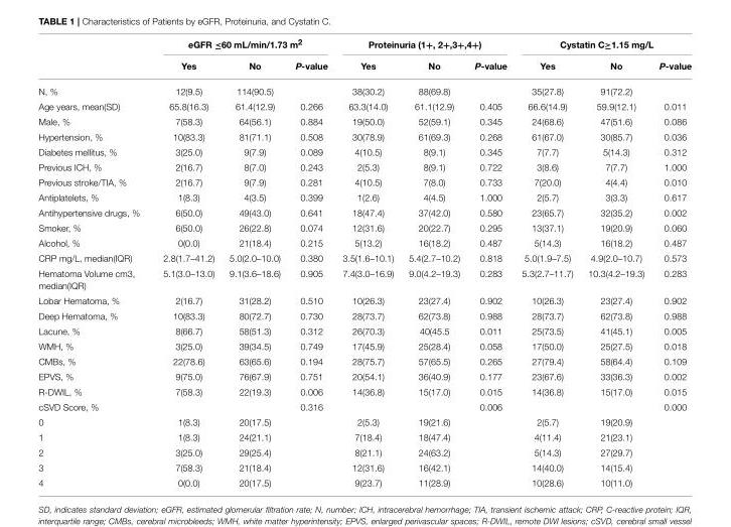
<table><thead><tr><td rowspan="2"></td><td colspan="3">eGFR ≤60 mL/min/1.73 m<sup>2</sup></td><td colspan="3">Proteinuria (1+, 2+,3+,4+)</td><td colspan="3">Cystatin C≥1.15 mg/L</td></tr><tr><td>Yes</td><td>No</td><td>P-value</td><td>Yes</td><td>No</td><td>P-value</td><td>Yes</td><td>No</td><td>P-value</td></tr></thead><tbody><tr><td>N, %</td><td>12(9.5)</td><td>114(90.5)</td><td></td><td>38(30.2)</td><td>88(69.8)</td><td></td><td>35(27.8)</td><td>91(72.2)</td><td></td></tr><tr><td>Age years, mean(SD)</td><td>65.8(16.3)</td><td>61.4(12.9)</td><td>0.266</td><td>63.3(14.0)</td><td>61.1(12.9)</td><td>0.405</td><td>66.6(14.9)</td><td>59.9(12.1)</td><td>0.011</td></tr><tr><td>Male, %</td><td>7(58.3)</td><td>64(56.1)</td><td>0.884</td><td>19(50.0)</td><td>52(59.1)</td><td>0.345</td><td>24(68.6)</td><td>47(51.6)</td><td>0.086</td></tr><tr><td>Hypertension, %</td><td>10(83.3)</td><td>81(71.1)</td><td>0.508</td><td>30(78.9)</td><td>61(69.3)</td><td>0.268</td><td>61(67.0)</td><td>30(85.7)</td><td>0.036</td></tr><tr><td>Diabetes mellitus, %</td><td>3(25.0)</td><td>9(7.9)</td><td>0.089</td><td>4(10.5)</td><td>8(9.1)</td><td>0.345</td><td>7(7.7)</td><td>5(14.3)</td><td>0.312</td></tr><tr><td>Previous ICH, %</td><td>2(16.7)</td><td>8(7.0)</td><td>0.243</td><td>2(5.3)</td><td>8(9.1)</td><td>0.722</td><td>3(8.6)</td><td>7(7.7)</td><td>1.000</td></tr><tr><td>Previous stroke/TIA, %</td><td>2(16.7)</td><td>9(7.9)</td><td>0.281</td><td>4(10.5)</td><td>7(8.0)</td><td>0.733</td><td>7(20.0)</td><td>4(4.4)</td><td>0.010</td></tr><tr><td>Antiplatelets, %</td><td>1(8.3)</td><td>4(3.5)</td><td>0.399</td><td>1(2.6)</td><td>4(4.5)</td><td>1.000</td><td>2(5.7)</td><td>3(3.3)</td><td>0.617</td></tr><tr><td>Antihypertensive drugs, %</td><td>6(50.0)</td><td>49(43.0)</td><td>0.641</td><td>18(47.4)</td><td>37(42.0)</td><td>0.580</td><td>23(65.7)</td><td>32(35.2)</td><td>0.002</td></tr><tr><td>Smoker, %</td><td>6(50.0)</td><td>26(22.8)</td><td>0.074</td><td>12(31.6)</td><td>20(22.7)</td><td>0.295</td><td>13(37.1)</td><td>19(20.9)</td><td>0.060</td></tr><tr><td>Alcohol, %</td><td>0(0.0)</td><td>21(18.4)</td><td>0.215</td><td>5(13.2)</td><td>16(18.2)</td><td>0.487</td><td>5(14.3)</td><td>16(18.2)</td><td>0.487</td></tr><tr><td>CRP mg/L, median(IQR)</td><td>2.8(1.7–41.2)</td><td>5.0(2.0–10.0)</td><td>0.380</td><td>3.5(1.6–10.1)</td><td>5.4(2.7–10.2)</td><td>0.818</td><td>5.0(1.9–7.5)</td><td>4.9(2.0–10.7)</td><td>0.573</td></tr><tr><td>Hematoma Volume cm3, median(IQR)</td><td>5.1(3.0–13.0)</td><td>9.1(3.6–18.6)</td><td>0.905</td><td>7.4(3.0–16.9)</td><td>9.0(4.2–19.3)</td><td>0.283</td><td>5.3(2.7–11.7)</td><td>10.3(4.2–19.3)</td><td>0.283</td></tr><tr><td>Lobar Hematoma, %</td><td>2(16.7)</td><td>31(28.2)</td><td>0.510</td><td>10(26.3)</td><td>23(27.4)</td><td>0.902</td><td>10(26.3)</td><td>23(27.4)</td><td>0.902</td></tr><tr><td>Deep Hematoma, %</td><td>10(83.3)</td><td>80(72.7)</td><td>0.730</td><td>28(73.7)</td><td>62(73.8)</td><td>0.988</td><td>28(73.7)</td><td>62(73.8)</td><td>0.988</td></tr><tr><td>Lacune, %</td><td>8(66.7)</td><td>58(51.3)</td><td>0.312</td><td>26(70.3)</td><td>40(45.5</td><td>0.011</td><td>25(73.5)</td><td>41(45.1)</td><td>0.005</td></tr><tr><td>WMH, %</td><td>3(25.0)</td><td>39(34.5)</td><td>0.749</td><td>17(45.9)</td><td>25(28.4)</td><td>0.058</td><td>17(50.0)</td><td>25(27.5)</td><td>0.018</td></tr><tr><td>CMBs, %</td><td>22(78.6)</td><td>63(65.6)</td><td>0.194</td><td>28(75.7)</td><td>57(65.5)</td><td>0.265</td><td>27(79.4)</td><td>58(64.4)</td><td>0.109</td></tr><tr><td>EPVS, %</td><td>9(75.0)</td><td>76(67.9)</td><td>0.751</td><td>20(54.1)</td><td>36(40.9)</td><td>0.177</td><td>23(67.6)</td><td>33(36.3)</td><td>0.002</td></tr><tr><td>R-DWIL, %</td><td>7(58.3)</td><td>22(19.3)</td><td>0.006</td><td>14(36.8)</td><td>15(17.0)</td><td>0.015</td><td>14(36.8)</td><td>15(17.0)</td><td>0.015</td></tr><tr><td>cSVD Score, %</td><td></td><td></td><td>0.316</td><td></td><td></td><td>0.006</td><td></td><td></td><td>0.000</td></tr><tr><td>0</td><td>1(8.3)</td><td>20(17.5)</td><td></td><td>2(5.3)</td><td>19(21.6)</td><td></td><td>2(5.7)</td><td>19(20.9)</td><td></td></tr><tr><td>1</td><td>1(8.3)</td><td>24(21.1)</td><td></td><td>7(18.4)</td><td>18(47.4)</td><td></td><td>4(11.4)</td><td>21(23.1)</td><td></td></tr><tr><td>2</td><td>3(25.0)</td><td>29(25.4)</td><td></td><td>8(21.1)</td><td>24(63.2)</td><td></td><td>5(14.3)</td><td>27(29.7)</td><td></td></tr><tr><td>3</td><td>7(58.3)</td><td>21(18.4)</td><td></td><td>12(31.6)</td><td>16(42.1)</td><td></td><td>14(40.0)</td><td>14(15.4)</td><td></td></tr><tr><td>4</td><td>0(0.0)</td><td>20(17.5)</td><td></td><td>9(23.7)</td><td>11(28.9)</td><td></td><td>10(28.6)</td><td>10(11.0)</td><td></td></tr></tbody></table>